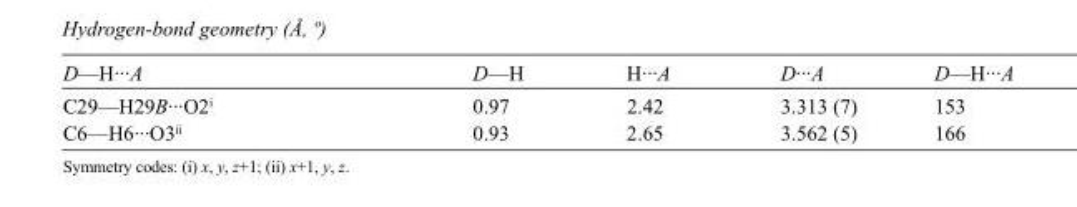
<table><tbody><tr><td>D—H···A</td><td>D—H</td><td>H···A</td><td>D···A</td><td>D—H···A</td></tr><tr><td>C29—H29B···O2<sup>i</sup></td><td>0.97</td><td>2.42</td><td>3.313 (7)</td><td>153</td></tr><tr><td>C6—H6···O3<sup>ii</sup></td><td>0.93</td><td>2.65</td><td>3.562 (5)</td><td>166</td></tr></tbody></table>